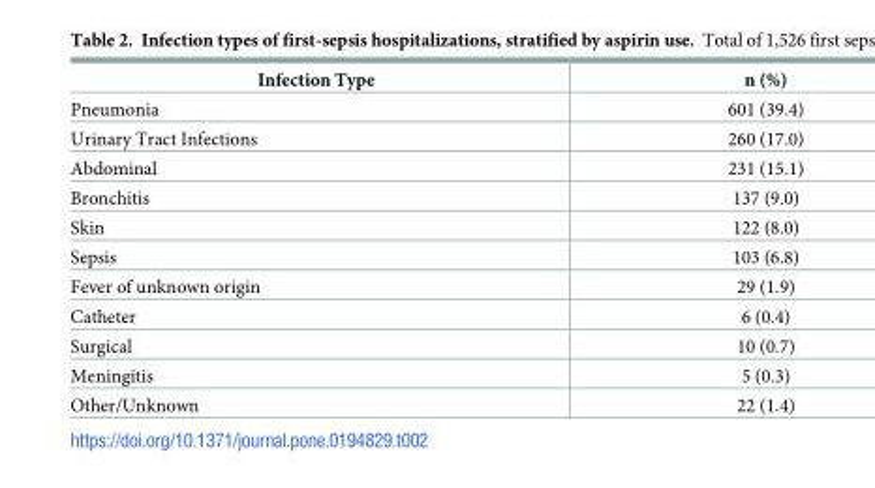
<table><thead><tr><td>Infection Type</td><td>n (%)</td></tr></thead><tbody><tr><td>Pneumonia</td><td>601 (39.4)</td></tr><tr><td>Urinary Tract Infections</td><td>260 (17.0)</td></tr><tr><td>Abdominal</td><td>231 (15.1)</td></tr><tr><td>Bronchitis</td><td>137 (9.0)</td></tr><tr><td>Skin</td><td>122 (8.0)</td></tr><tr><td>Sepsis</td><td>103 (6.8)</td></tr><tr><td>Fever of unknown origin</td><td>29 (1.9)</td></tr><tr><td>Catheter</td><td>6 (0.4)</td></tr><tr><td>Surgical</td><td>10 (0.7)</td></tr><tr><td>Meningitis</td><td>5 (0.3)</td></tr><tr><td>Other/Unknown</td><td>22 (1.4)</td></tr></tbody></table>